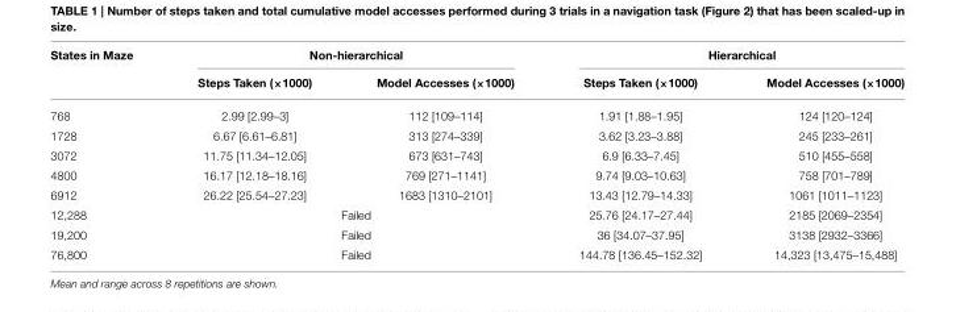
<table><thead><tr><td rowspan="2">States in Maze</td><td colspan="2">Non-hierarchical</td><td colspan="2">Hierarchical</td></tr><tr><td>Steps Taken (×1000)</td><td>Model Accesses (×1000)</td><td>Steps Taken (×1000)</td><td>Model Accesses (×1000)</td></tr></thead><tbody><tr><td>768</td><td>2.99 [2.99–3]</td><td>112 [109–114]</td><td>1.91 [1.88–1.95]</td><td>124 [120–124]</td></tr><tr><td>1728</td><td>6.67 [6.61–6.81]</td><td>313 [274–339]</td><td>3.62 [3.23–3.88]</td><td>245 [233–261]</td></tr><tr><td>3072</td><td>11.75 [11.34–12.05]</td><td>673 [631–743]</td><td>6.9 [6.33–7.45]</td><td>510 [455–558]</td></tr><tr><td>4800</td><td>16.17 [12.18–18.16]</td><td>769 [271–1141]</td><td>9.74 [9.03–10.63]</td><td>758 [701–789]</td></tr><tr><td>6912</td><td>26.22 [25.54–27.23]</td><td>1683 [1310–2101]</td><td>13.43 [12.79–14.33]</td><td>1061 [1011–1123]</td></tr><tr><td>12,288</td><td colspan="2">Failed</td><td>25.76 [24.17–27.44]</td><td>2185 [2069–2354]</td></tr><tr><td>19,200</td><td colspan="2">Failed</td><td>36 [34.07–37.95]</td><td>3138 [2932–3366]</td></tr><tr><td>76,800</td><td colspan="2">Failed</td><td>144.78 [136.45–152.32]</td><td>14,323 [13,475–15,488]</td></tr></tbody></table>